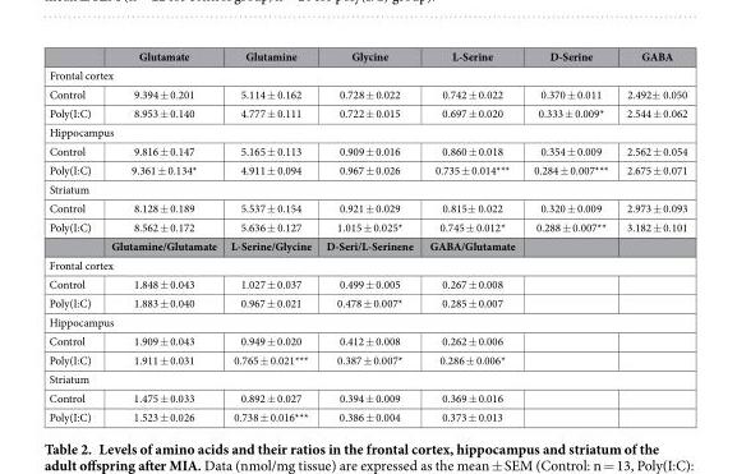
<table><thead><tr><td></td><td>Glutamate</td><td>Glutamine</td><td>Glycine</td><td>L-Serine</td><td>D-Serine</td><td>GABA</td></tr></thead><tbody><tr><td colspan="7">Frontal cortex</td></tr><tr><td>Control</td><td>9.394 ± 0.201</td><td>5.114 ± 0.162</td><td>0.728 ± 0.022</td><td>0.742 ± 0.022</td><td>0.370 ± 0.011</td><td>2.492± 0.050</td></tr><tr><td>Poly(I:C)</td><td>8.953 ± 0.140</td><td>4.777 ± 0.111</td><td>0.722 ± 0.015</td><td>0.697 ± 0.020</td><td>0.333 ± 0.009*</td><td>2.544 ± 0.062</td></tr><tr><td colspan="7">Hippocampus</td></tr><tr><td>Control</td><td>9.816 ± 0.147</td><td>5.165 ± 0.113</td><td>0.909 ± 0.016</td><td>0.860 ± 0.018</td><td>0.354 ± 0.009</td><td>2.562 ± 0.054</td></tr><tr><td>Poly(I:C)</td><td>9.361 ± 0.134*</td><td>4.911 ± 0.094</td><td>0.967 ± 0.026</td><td>0.735 ± 0.014***</td><td>0.284 ± 0.007***</td><td>2.675 ± 0.071</td></tr><tr><td colspan="7">Striatum</td></tr><tr><td>Control</td><td>8.128 ± 0.189</td><td>5.537 ± 0.154</td><td>0.921 ± 0.029</td><td>0.815± 0.022</td><td>0.320 ± 0.009</td><td>2.973 ± 0.093</td></tr><tr><td rowspan="2">Poly(I:C)</td><td>8.562 ± 0.172</td><td>5.636 ± 0.127</td><td>1.015 ± 0.025*</td><td>0.745 ± 0.012*</td><td>0.288 ± 0.007**</td><td>3.182 ± 0.101</td></tr><tr><td>Glutamine/Glutamate</td><td>L-Serine/Glycine</td><td>D-Seri/L-Serinene</td><td>GABA/Glutamate</td><td></td><td></td></tr><tr><td colspan="7">Frontal cortex</td></tr><tr><td>Control</td><td>1.848 ± 0.043</td><td>1.027 ± 0.037</td><td>0.499 ± 0.005</td><td>0.267 ± 0.008</td><td></td><td></td></tr><tr><td>Poly(I:C)</td><td>1.883 ± 0.040</td><td>0.967 ± 0.021</td><td>0.478 ± 0.007*</td><td>0.285 ± 0.007</td><td></td><td></td></tr><tr><td colspan="7">Hippocampus</td></tr><tr><td>Control</td><td>1.909 ± 0.043</td><td>0.949 ± 0.020</td><td>0.412 ± 0.008</td><td>0.262 ± 0.006</td><td></td><td></td></tr><tr><td>Poly(I:C)</td><td>1.911 ± 0.031</td><td>0.765 ± 0.021***</td><td>0.387 ± 0.007*</td><td>0.286 ± 0.006*</td><td></td><td></td></tr><tr><td colspan="7">Striatum</td></tr><tr><td>Control</td><td>1.475 ± 0.033</td><td>0.892 ± 0.027</td><td>0.394 ± 0.009</td><td>0.369 ± 0.016</td><td></td><td></td></tr><tr><td>Poly(I:C)</td><td>1.523 ± 0.026</td><td>0.738 ± 0.016***</td><td>0.386 ± 0.004</td><td>0.373 ± 0.013</td><td></td><td></td></tr></tbody></table>